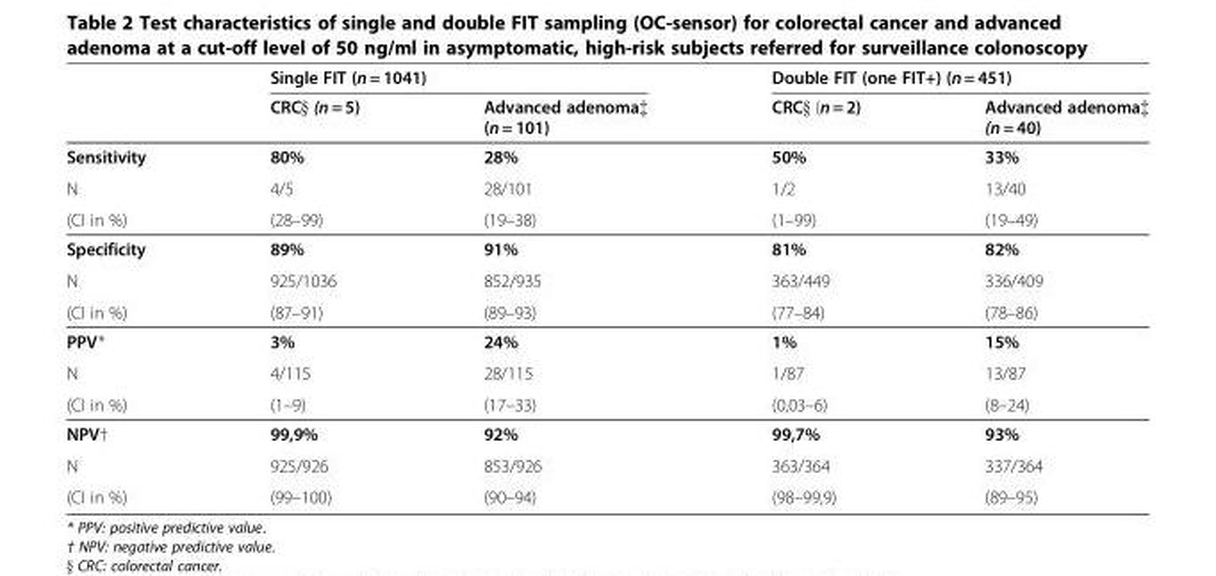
<table><thead><tr><td rowspan="2"></td><td colspan="2">Single FIT (n = 1041)</td><td colspan="2">Double FIT (one FIT+) (n = 451)</td></tr><tr><td>CRC§ (n = 5)</td><td>Advanced adenoma‡ (n = 101)</td><td>CRC§ (n = 2)</td><td>Advanced adenoma‡ (n = 40)</td></tr></thead><tbody><tr><td>Sensitivity</td><td>80%</td><td>28%</td><td>50%</td><td>33%</td></tr><tr><td>N</td><td>4/5</td><td>28/101</td><td>1/2</td><td>13/40</td></tr><tr><td>(CI in %)</td><td>(28–99)</td><td>(19–38)</td><td>(1–99)</td><td>(19–49)</td></tr><tr><td>Specificity</td><td>89%</td><td>91%</td><td>81%</td><td>82%</td></tr><tr><td>N</td><td>925/1036</td><td>852/935</td><td>363/449</td><td>336/409</td></tr><tr><td>(CI in %)</td><td>(87–91)</td><td>(89–93)</td><td>(77–84)</td><td>(78–86)</td></tr><tr><td>PPV*</td><td>3%</td><td>24%</td><td>1%</td><td>15%</td></tr><tr><td>N</td><td>4/115</td><td>28/115</td><td>1/87</td><td>13/87</td></tr><tr><td>(CI in %)</td><td>(1–9)</td><td>(17–33)</td><td>(0,03–6)</td><td>(8–24)</td></tr><tr><td>NPV†</td><td>99,9%</td><td>92%</td><td>99,7%</td><td>93%</td></tr><tr><td>N</td><td>925/926</td><td>853/926</td><td>363/364</td><td>337/364</td></tr><tr><td>(CI in %)</td><td>(99–100)</td><td>(90–94)</td><td>(98–99,9)</td><td>(89–95)</td></tr></tbody></table>